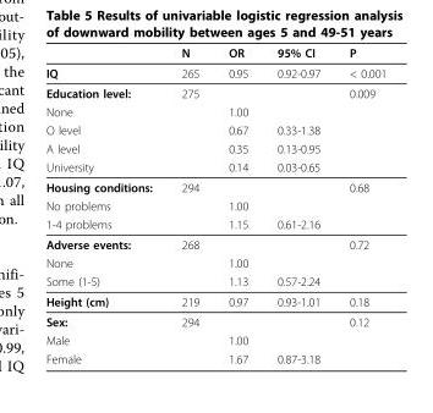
<table><thead><tr><td></td><td>N</td><td>OR</td><td>95% CI</td><td>P</td></tr></thead><tbody><tr><td>IQ</td><td>265</td><td>0.95</td><td>0.92-0.97</td><td>&lt; 0.001</td></tr><tr><td>Education level:</td><td>275</td><td></td><td></td><td>0.009</td></tr><tr><td>None</td><td></td><td>1.00</td><td></td><td></td></tr><tr><td>O level</td><td></td><td>0.67</td><td>0.33-1.38</td><td></td></tr><tr><td>A level</td><td></td><td>0.35</td><td>0.13-0.95</td><td></td></tr><tr><td>University</td><td></td><td>0.14</td><td>0.03-0.65</td><td></td></tr><tr><td>Housing conditions:</td><td>294</td><td></td><td></td><td>0.68</td></tr><tr><td>No problems</td><td></td><td>1.00</td><td></td><td></td></tr><tr><td>1-4 problems</td><td></td><td>1.15</td><td>0.61-2.16</td><td></td></tr><tr><td>Adverse events:</td><td>268</td><td></td><td></td><td>0.72</td></tr><tr><td>None</td><td></td><td>1.00</td><td></td><td></td></tr><tr><td>Some (1-5)</td><td></td><td>1.13</td><td>0.57-2.24</td><td></td></tr><tr><td>Height (cm)</td><td>219</td><td>0.97</td><td>0.93-1.01</td><td>0.18</td></tr><tr><td>Sex:</td><td>294</td><td></td><td></td><td>0.12</td></tr><tr><td>Male</td><td></td><td>1.00</td><td></td><td></td></tr><tr><td>Female</td><td></td><td>1.67</td><td>0.87-3.18</td><td></td></tr></tbody></table>